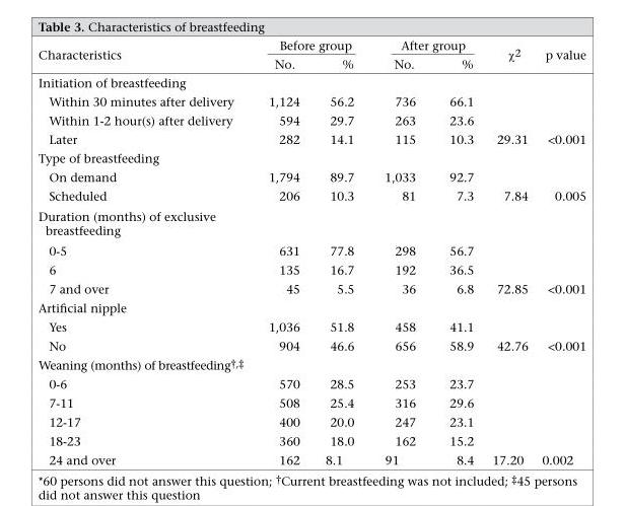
<table><thead><tr><td rowspan="2">Characteristics</td><td colspan="2">Before group</td><td colspan="2">After group</td><td rowspan="2">χ2</td><td rowspan="2">p value</td></tr><tr><td>No.</td><td>%</td><td>No.</td><td>%</td></tr></thead><tbody><tr><td colspan="7">Initiation of breastfeeding</td></tr><tr><td>Within 30 minutes after delivery</td><td>1,124</td><td>56.2</td><td>736</td><td>66.1</td><td></td><td></td></tr><tr><td>Within 1-2 hour(s) after delivery</td><td>594</td><td>29.7</td><td>263</td><td>23.6</td><td></td><td></td></tr><tr><td>Later</td><td>282</td><td>14.1</td><td>115</td><td>10.3</td><td>29.31</td><td>&lt;0.001</td></tr><tr><td colspan="7">Type of breastfeeding</td></tr><tr><td>On demand</td><td>1,794</td><td>89.7</td><td>1,033</td><td>92.7</td><td></td><td></td></tr><tr><td>Scheduled</td><td>206</td><td>10.3</td><td>81</td><td>7.3</td><td>7.84</td><td>0.005</td></tr><tr><td colspan="7">Duration (months) of exclusive breastfeeding</td></tr><tr><td>0-5</td><td>631</td><td>77.8</td><td>298</td><td>56.7</td><td></td><td></td></tr><tr><td>6</td><td>135</td><td>16.7</td><td>192</td><td>36.5</td><td></td><td></td></tr><tr><td>7 and over</td><td>45</td><td>5.5</td><td>36</td><td>6.8</td><td>72.85</td><td>&lt;0.001</td></tr><tr><td colspan="7">Artificial nipple</td></tr><tr><td>Yes</td><td>1,036</td><td>51.8</td><td>458</td><td>41.1</td><td></td><td></td></tr><tr><td>No</td><td>904</td><td>46.6</td><td>656</td><td>58.9</td><td>42.76</td><td>&lt;0.001</td></tr><tr><td colspan="7">Weaning (months) of breastfeeding†,‡</td></tr><tr><td>0-6</td><td>570</td><td>28.5</td><td>253</td><td>23.7</td><td></td><td></td></tr><tr><td>7-11</td><td>508</td><td>25.4</td><td>316</td><td>29.6</td><td></td><td></td></tr><tr><td>12-17</td><td>400</td><td>20.0</td><td>247</td><td>23.1</td><td></td><td></td></tr><tr><td>18-23</td><td>360</td><td>18.0</td><td>162</td><td>15.2</td><td></td><td></td></tr><tr><td>24 and over</td><td>162</td><td>8.1</td><td>91</td><td>8.4</td><td>17.20</td><td>0.002</td></tr></tbody></table>